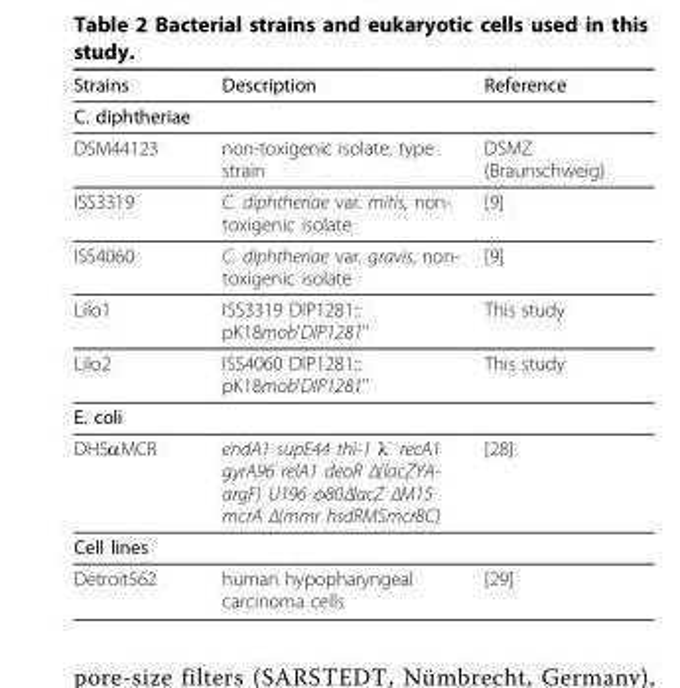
<table><thead><tr><td>Strains</td><td>Description</td><td>Reference</td></tr></thead><tbody><tr><td colspan="3">C. diphtheriae</td></tr><tr><td>DSM44123</td><td>non-toxigenic isolate, type strain</td><td>DSMZ (Braunschweig)</td></tr><tr><td>ISS3319</td><td>C. diphtheriae var. mitis, non- toxigenic isolate</td><td>[9]</td></tr><tr><td>ISS4060</td><td>C. diphtheriae var. gravis, non- toxigenic isolate</td><td>[9]</td></tr><tr><td>Lilo1</td><td>ISS3319 DIP1281:: pK18mob&#x27;DIP1281&#x27;&#x27;</td><td>This study</td></tr><tr><td>Lilo2</td><td>ISS4060 DIP1281:: pK18mob&#x27;DIP1281&#x27;&#x27;</td><td>This study</td></tr><tr><td colspan="3">E. coli</td></tr><tr><td>DH5αMCR</td><td>endA1 supE44 thi-1 λ<sup>-</sup> recA1 gyrA96 relA1 deoR Δ(lacZYA- argF) U196 φ80ΔlacZ ΔM15 mcrA Δ(mmr hsdRMSmcrBC)</td><td>[28]</td></tr><tr><td colspan="3">Cell lines</td></tr><tr><td>Detroit562</td><td>human hypopharyngeal carcinoma cells</td><td>[29]</td></tr></tbody></table>